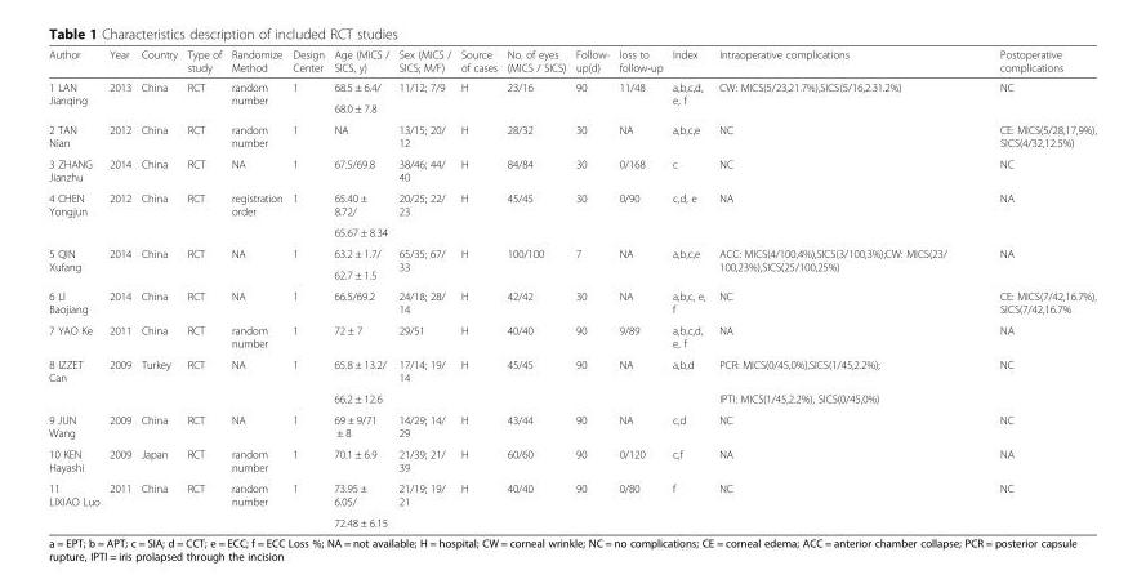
<table><thead><tr><td>Author</td><td>Year</td><td>Country</td><td>Type of study</td><td>Randomize Method</td><td>Design Center</td><td>Age (MICS / SICS, y)</td><td>Sex (MICS / SICS; M/F)</td><td>Source of cases</td><td>No. of eyes (MICS / SICS)</td><td>Follow- up(d)</td><td>loss to follow-up</td><td>Index</td><td>Intraoperative complications</td><td>Postoperative complications</td></tr></thead><tbody><tr><td rowspan="2">1 LAN Jianqing</td><td rowspan="2">2013</td><td rowspan="2">China</td><td rowspan="2">RCT</td><td rowspan="2">random number</td><td rowspan="2">1</td><td>68.5 ± 6.4/</td><td rowspan="2">11/12; 7/9</td><td rowspan="2">H</td><td rowspan="2">23/16</td><td rowspan="2">90</td><td rowspan="2">11/48</td><td rowspan="2">a,b,c,d, e, f</td><td rowspan="2">CW: MICS(5/23,21.7%),SICS(5/16,2.31.2%)</td><td rowspan="2">NC</td></tr><tr><td>68.0 ± 7.8</td></tr><tr><td>2 TAN Nian</td><td>2012</td><td>China</td><td>RCT</td><td>random number</td><td>1</td><td>NA</td><td>13/15; 20/ 12</td><td>H</td><td>28/32</td><td>30</td><td>NA</td><td>a,b,c,e</td><td>NC</td><td>CE: MICS(5/28,17,9%), SICS(4/32,12.5%)</td></tr><tr><td>3 ZHANG Jianzhu</td><td>2014</td><td>China</td><td>RCT</td><td>NA</td><td>1</td><td>67.5/69.8</td><td>38/46; 44/ 40</td><td>H</td><td>84/84</td><td>30</td><td>0/168</td><td>c</td><td>NC</td><td>NC</td></tr><tr><td rowspan="2">4 CHEN Yongjun</td><td rowspan="2">2012</td><td rowspan="2">China</td><td rowspan="2">RCT</td><td rowspan="2">registration order</td><td rowspan="2">1</td><td>65.40 ± 8.72/</td><td rowspan="2">20/25; 22/ 23</td><td rowspan="2">H</td><td rowspan="2">45/45</td><td rowspan="2">30</td><td rowspan="2">0/90</td><td rowspan="2">c,d, e</td><td rowspan="2">NA</td><td rowspan="2">NA</td></tr><tr><td>65.67 ± 8.34</td></tr><tr><td rowspan="2">5 QIN Xufang</td><td rowspan="2">2014</td><td rowspan="2">China</td><td rowspan="2">RCT</td><td rowspan="2">NA</td><td rowspan="2">1</td><td>63.2 ± 1.7/</td><td rowspan="2">65/35; 67/ 33</td><td rowspan="2">H</td><td rowspan="2">100/100</td><td rowspan="2">7</td><td rowspan="2">NA</td><td rowspan="2">a,b,c,e</td><td rowspan="2">ACC: MICS(4/100,4%),SICS(3/100,3%);CW: MICS(23/ 100,23%),SICS(25/100,25%)</td><td rowspan="2">NA</td></tr><tr><td>62.7 ± 1.5</td></tr><tr><td>6 LI Baojiang</td><td>2014</td><td>China</td><td>RCT</td><td>NA</td><td>1</td><td>66.5/69.2</td><td>24/18; 28/ 14</td><td>H</td><td>42/42</td><td>30</td><td>NA</td><td>a,b,c, e, f</td><td>NC</td><td>CE: MICS(7/42,16.7%), SICS(7/42,16.7%</td></tr><tr><td>7 YAO Ke</td><td>2011</td><td>China</td><td>RCT</td><td>random number</td><td>1</td><td>72 ± 7</td><td>29/51</td><td>H</td><td>40/40</td><td>90</td><td>9/89</td><td>a,b,c,d, e, f</td><td>NA</td><td>NA</td></tr><tr><td rowspan="2">8 IZZET Can</td><td rowspan="2">2009</td><td rowspan="2">Turkey</td><td rowspan="2">RCT</td><td rowspan="2">NA</td><td rowspan="2">1</td><td>65.8 ± 13.2/</td><td>17/14; 19/ 14</td><td>H</td><td>45/45</td><td>90</td><td>NA</td><td>a,b,d</td><td>PCR: MICS(0/45,0%),SICS(1/45,2.2%);</td><td rowspan="2">NC</td></tr><tr><td>66.2 ± 12.6</td><td></td><td></td><td></td><td></td><td></td><td></td><td>IPTI: MICS(1/45,2.2%), SICS(0/45,0%)</td></tr><tr><td>9 JUN Wang</td><td>2009</td><td>China</td><td>RCT</td><td>NA</td><td>1</td><td>69 ± 9/71 ± 8</td><td>14/29; 14/ 29</td><td>H</td><td>43/44</td><td>90</td><td>NA</td><td>c,d</td><td>NC</td><td>NC</td></tr><tr><td>10 KEN Hayashi</td><td>2009</td><td>Japan</td><td>RCT</td><td>random number</td><td>1</td><td>70.1 ± 6.9</td><td>21/39; 21/ 39</td><td>H</td><td>60/60</td><td>90</td><td>0/120</td><td>c,f</td><td>NA</td><td>NA</td></tr><tr><td rowspan="2">11 LIXIAO Luo</td><td rowspan="2">2011</td><td rowspan="2">China</td><td rowspan="2">RCT</td><td rowspan="2">random number</td><td rowspan="2">1</td><td>73.95 ± 6.05/</td><td rowspan="2">21/19; 19/ 21</td><td rowspan="2">H</td><td rowspan="2">40/40</td><td rowspan="2">90</td><td rowspan="2">0/80</td><td rowspan="2">f</td><td rowspan="2">NC</td><td rowspan="2">NC</td></tr><tr><td>72.48 ± 6.15</td></tr></tbody></table>